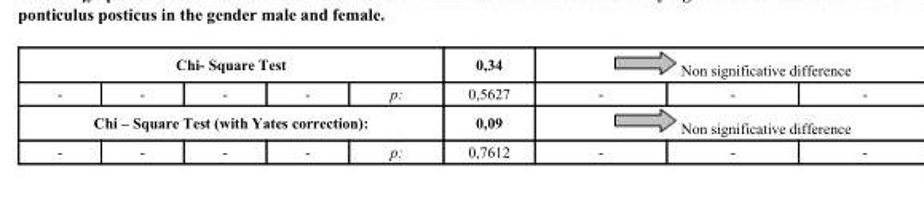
<table><tbody><tr><td colspan="5">Chi- Square Test</td><td>0,34</td><td colspan="3">Non significative difference</td></tr><tr><td>-</td><td>-</td><td>-</td><td>-</td><td>p:</td><td>0,5627</td><td>-</td><td>-</td><td>-</td></tr><tr><td colspan="5">Chi – Square Test (with Yates correction):</td><td>0,09</td><td colspan="3">Non significative difference</td></tr><tr><td>-</td><td>-</td><td>-</td><td>-</td><td>p:</td><td>0,7612</td><td>-</td><td>-</td><td>-</td></tr></tbody></table>